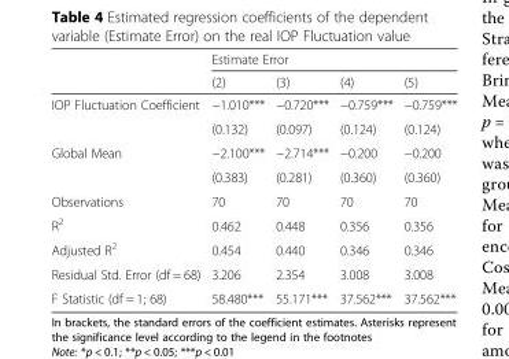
<table><thead><tr><td rowspan="2"></td><td colspan="4">Estimate Error</td></tr><tr><td>(2)</td><td>(3)</td><td>(4)</td><td>(5)</td></tr></thead><tbody><tr><td rowspan="2">IOP Fluctuation Coefficient</td><td>−1.010***</td><td>−0.720***</td><td>−0.759***</td><td>−0.759***</td></tr><tr><td>(0.132)</td><td>(0.097)</td><td>(0.124)</td><td>(0.124)</td></tr><tr><td rowspan="2">Global Mean</td><td>−2.100***</td><td>−2.714***</td><td>−0.200</td><td>−0.200</td></tr><tr><td>(0.383)</td><td>(0.281)</td><td>(0.360)</td><td>(0.360)</td></tr><tr><td>Observations</td><td>70</td><td>70</td><td>70</td><td>70</td></tr><tr><td>R<sup>2</sup></td><td>0.462</td><td>0.448</td><td>0.356</td><td>0.356</td></tr><tr><td>Adjusted R<sup>2</sup></td><td>0.454</td><td>0.440</td><td>0.346</td><td>0.346</td></tr><tr><td>Residual Std. Error (df = 68)</td><td>3.206</td><td>2.354</td><td>3.008</td><td>3.008</td></tr><tr><td>F Statistic (df = 1; 68)</td><td>58.480***</td><td>55.171***</td><td>37.562***</td><td>37.562***</td></tr></tbody></table>